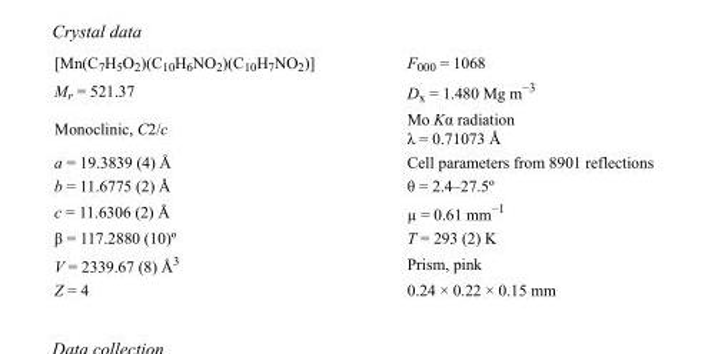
<table><tbody><tr><td>[Mn(C<sub>7</sub>H<sub>5</sub>O<sub>2</sub>)(C<sub>10</sub>H<sub>6</sub>NO<sub>2</sub>)(C<sub>10</sub>H<sub>7</sub>NO<sub>2</sub>)]</td><td>F<sub>000</sub> = 1068</td></tr><tr><td>M<sub>r</sub> = 521.37</td><td>D<sub>x</sub> = 1.480 Mg m<sup>−3</sup></td></tr><tr><td>Monoclinic, C2/c</td><td>Mo Kα radiation λ = 0.71073 Å</td></tr><tr><td>a = 19.3839 (4) Å</td><td>Cell parameters from 8901 reflections</td></tr><tr><td>b = 11.6775 (2) Å</td><td>θ = 2.4–27.5º</td></tr><tr><td>c = 11.6306 (2) Å</td><td>µ = 0.61 mm<sup>−1</sup></td></tr><tr><td>β = 117.2880 (10)º</td><td>T = 293 (2) K</td></tr><tr><td>V = 2339.67 (8) Å<sup>3</sup></td><td>Prism, pink</td></tr><tr><td>Z = 4</td><td>0.24 × 0.22 × 0.15 mm</td></tr></tbody></table>